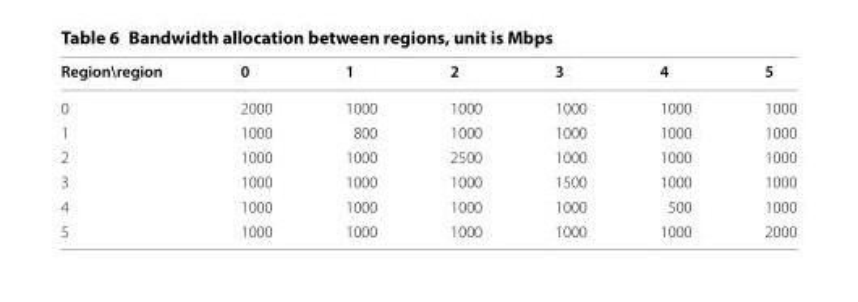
<table><thead><tr><td>Region\region</td><td>0</td><td>1</td><td>2</td><td>3</td><td>4</td><td>5</td></tr></thead><tbody><tr><td>0</td><td>2000</td><td>1000</td><td>1000</td><td>1000</td><td>1000</td><td>1000</td></tr><tr><td>1</td><td>1000</td><td>800</td><td>1000</td><td>1000</td><td>1000</td><td>1000</td></tr><tr><td>2</td><td>1000</td><td>1000</td><td>2500</td><td>1000</td><td>1000</td><td>1000</td></tr><tr><td>3</td><td>1000</td><td>1000</td><td>1000</td><td>1500</td><td>1000</td><td>1000</td></tr><tr><td>4</td><td>1000</td><td>1000</td><td>1000</td><td>1000</td><td>500</td><td>1000</td></tr><tr><td>5</td><td>1000</td><td>1000</td><td>1000</td><td>1000</td><td>1000</td><td>2000</td></tr></tbody></table>